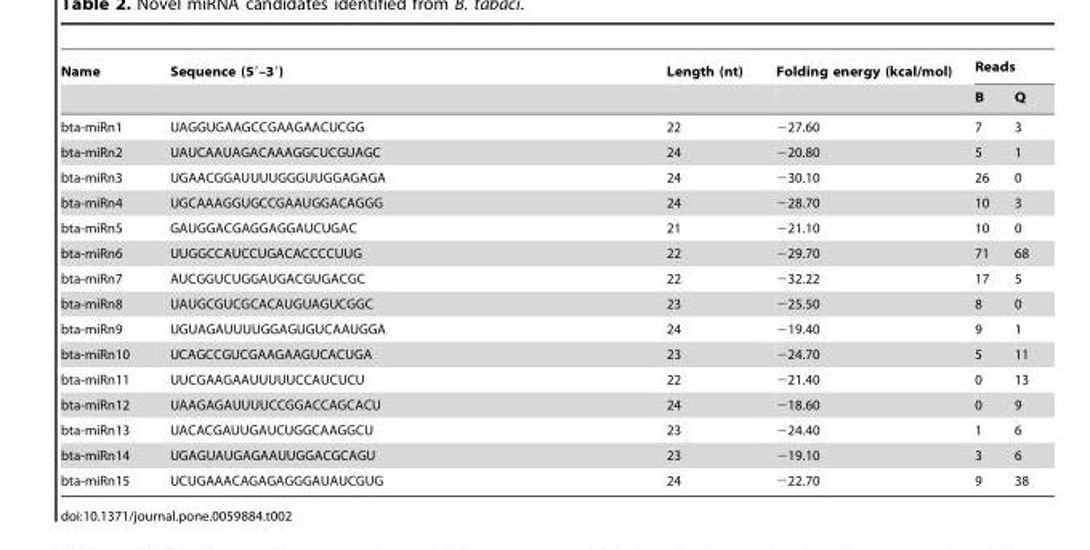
<table><thead><tr><td rowspan="2">Name</td><td rowspan="2">Sequence (5′–3′)</td><td rowspan="2">Length (nt)</td><td rowspan="2">Folding energy (kcal/mol)</td><td colspan="2">Reads</td></tr><tr><td>B</td><td>Q</td></tr></thead><tbody><tr><td>bta-miRn1</td><td>UAGGUGAAGCCGAAGAACUCGG</td><td>22</td><td>−27.60</td><td>7</td><td>3</td></tr><tr><td>bta-miRn2</td><td>UAUCAAUAGACAAAGGCUCGUAGC</td><td>24</td><td>−20.80</td><td>5</td><td>1</td></tr><tr><td>bta-miRn3</td><td>UGAACGGAUUUUGGGUUGGAGAGA</td><td>24</td><td>−30.10</td><td>26</td><td>0</td></tr><tr><td>bta-miRn4</td><td>UGCAAAGGUGCCGAAUGGACAGGG</td><td>24</td><td>−28.70</td><td>10</td><td>3</td></tr><tr><td>bta-miRn5</td><td>GAUGGACGAGGAGGAUCUGAC</td><td>21</td><td>−21.10</td><td>10</td><td>0</td></tr><tr><td>bta-miRn6</td><td>UUGGCCAUCCUGACACCCCUUG</td><td>22</td><td>−29.70</td><td>71</td><td>68</td></tr><tr><td>bta-miRn7</td><td>AUCGGUCUGGAUGACGUGACGC</td><td>22</td><td>−32.22</td><td>17</td><td>5</td></tr><tr><td>bta-miRn8</td><td>UAUGCGUCGCACAUGUAGUCGGC</td><td>23</td><td>−25.50</td><td>8</td><td>0</td></tr><tr><td>bta-miRn9</td><td>UGUAGAUUUUGGAGUGUCAAUGGA</td><td>24</td><td>−19.40</td><td>9</td><td>1</td></tr><tr><td>bta-miRn10</td><td>UCAGCCGUCGAAGAAGUCACUGA</td><td>23</td><td>−24.70</td><td>5</td><td>11</td></tr><tr><td>bta-miRn11</td><td>UUCGAAGAAUUUUUCCAUCUCU</td><td>22</td><td>−21.40</td><td>0</td><td>13</td></tr><tr><td>bta-miRn12</td><td>UAAGAGAUUUUCCGGACCAGCACU</td><td>24</td><td>−18.60</td><td>0</td><td>9</td></tr><tr><td>bta-miRn13</td><td>UACACGAUUGAUCUGGCAAGGCU</td><td>23</td><td>−24.40</td><td>1</td><td>6</td></tr><tr><td>bta-miRn14</td><td>UGAGUAUGAGAAUUGGACGCAGU</td><td>23</td><td>−19.10</td><td>3</td><td>6</td></tr><tr><td>bta-miRn15</td><td>UCUGAAACAGAGAGGGAUAUCGUG</td><td>24</td><td>−22.70</td><td>9</td><td>38</td></tr></tbody></table>